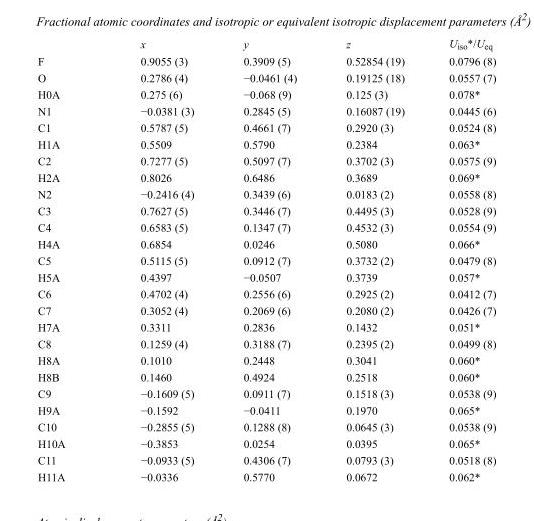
<table><thead><tr><td></td><td>x</td><td>y</td><td>z</td><td>U<sub>iso</sub>*/U<sub>eq</sub></td></tr></thead><tbody><tr><td>F</td><td>0.9055 (3)</td><td>0.3909 (5)</td><td>0.52854 (19)</td><td>0.0796 (8)</td></tr><tr><td>O</td><td>0.2786 (4)</td><td>−0.0461 (4)</td><td>0.19125 (18)</td><td>0.0557 (7)</td></tr><tr><td>H0A</td><td>0.275 (6)</td><td>−0.068 (9)</td><td>0.125 (3)</td><td>0.078*</td></tr><tr><td>N1</td><td>−0.0381 (3)</td><td>0.2845 (5)</td><td>0.16087 (19)</td><td>0.0445 (6)</td></tr><tr><td>C1</td><td>0.5787 (5)</td><td>0.4661 (7)</td><td>0.2920 (3)</td><td>0.0524 (8)</td></tr><tr><td>H1A</td><td>0.5509</td><td>0.5790</td><td>0.2384</td><td>0.063*</td></tr><tr><td>C2</td><td>0.7277 (5)</td><td>0.5097 (7)</td><td>0.3702 (3)</td><td>0.0575 (9)</td></tr><tr><td>H2A</td><td>0.8026</td><td>0.6486</td><td>0.3689</td><td>0.069*</td></tr><tr><td>N2</td><td>−0.2416 (4)</td><td>0.3439 (6)</td><td>0.0183 (2)</td><td>0.0558 (8)</td></tr><tr><td>C3</td><td>0.7627 (5)</td><td>0.3446 (7)</td><td>0.4495 (3)</td><td>0.0528 (9)</td></tr><tr><td>C4</td><td>0.6583 (5)</td><td>0.1347 (7)</td><td>0.4532 (3)</td><td>0.0554 (9)</td></tr><tr><td>H4A</td><td>0.6854</td><td>0.0246</td><td>0.5080</td><td>0.066*</td></tr><tr><td>C5</td><td>0.5115 (5)</td><td>0.0912 (7)</td><td>0.3732 (2)</td><td>0.0479 (8)</td></tr><tr><td>H5A</td><td>0.4397</td><td>−0.0507</td><td>0.3739</td><td>0.057*</td></tr><tr><td>C6</td><td>0.4702 (4)</td><td>0.2556 (6)</td><td>0.2925 (2)</td><td>0.0412 (7)</td></tr><tr><td>C7</td><td>0.3052 (4)</td><td>0.2069 (6)</td><td>0.2080 (2)</td><td>0.0426 (7)</td></tr><tr><td>H7A</td><td>0.3311</td><td>0.2836</td><td>0.1432</td><td>0.051*</td></tr><tr><td>C8</td><td>0.1259 (4)</td><td>0.3188 (7)</td><td>0.2395 (2)</td><td>0.0499 (8)</td></tr><tr><td>H8A</td><td>0.1010</td><td>0.2448</td><td>0.3041</td><td>0.060*</td></tr><tr><td>H8B</td><td>0.1460</td><td>0.4924</td><td>0.2518</td><td>0.060*</td></tr><tr><td>C9</td><td>−0.1609 (5)</td><td>0.0911 (7)</td><td>0.1518 (3)</td><td>0.0538 (9)</td></tr><tr><td>H9A</td><td>−0.1592</td><td>−0.0411</td><td>0.1970</td><td>0.065*</td></tr><tr><td>C10</td><td>−0.2855 (5)</td><td>0.1288 (8)</td><td>0.0645 (3)</td><td>0.0538 (9)</td></tr><tr><td>H10A</td><td>−0.3853</td><td>0.0254</td><td>0.0395</td><td>0.065*</td></tr><tr><td>C11</td><td>−0.0933 (5)</td><td>0.4306 (7)</td><td>0.0793 (3)</td><td>0.0518 (8)</td></tr><tr><td>H11A</td><td>−0.0336</td><td>0.5770</td><td>0.0672</td><td>0.062*</td></tr></tbody></table>